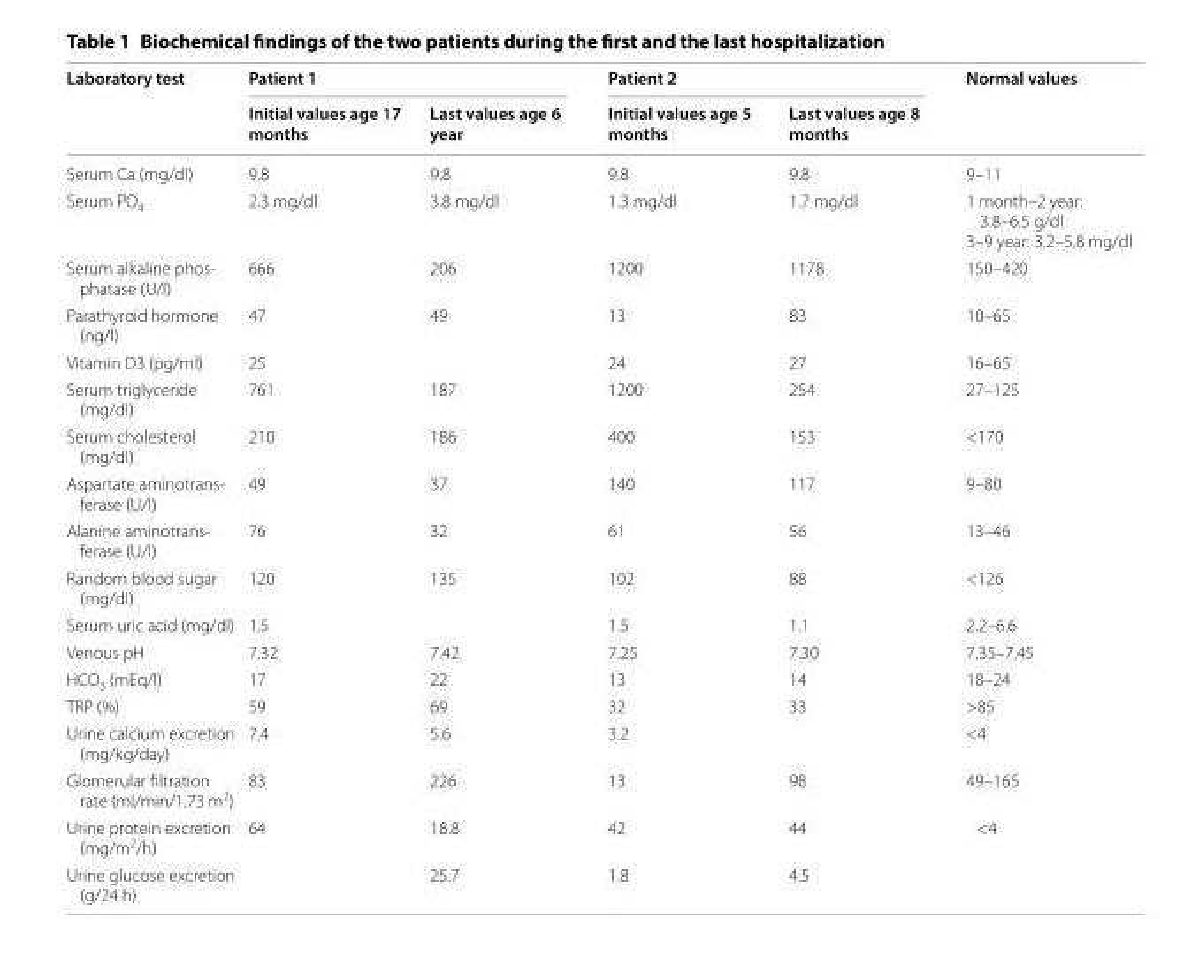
<table><thead><tr><td rowspan="2">Laboratory test</td><td colspan="2">Patient 1</td><td colspan="2">Patient 2</td><td rowspan="2">Normal values</td></tr><tr><td>Initial values age 17 months</td><td>Last values age 6 year</td><td>Initial values age 5 months</td><td>Last values age 8 months</td></tr></thead><tbody><tr><td>Serum Ca (mg/dl)</td><td>9.8</td><td>9.8</td><td>9.8</td><td>9.8</td><td>9–11</td></tr><tr><td>Serum PO<sub>4</sub></td><td>2.3 mg/dl</td><td>3.8 mg/dl</td><td>1.3 mg/dl</td><td>1.7 mg/dl</td><td>1 month–2 year: 3.8–6.5 g/dl 3–9 year: 3.2–5.8 mg/dl</td></tr><tr><td>Serum alkaline phos- phatase (U/l)</td><td>666</td><td>206</td><td>1200</td><td>1178</td><td>150–420</td></tr><tr><td>Parathyroid hormone (ng/l)</td><td>47</td><td>49</td><td>13</td><td>83</td><td>10–65</td></tr><tr><td>Vitamin D3 (pg/ml)</td><td>25</td><td></td><td>24</td><td>27</td><td>16–65</td></tr><tr><td>Serum triglyceride (mg/dl)</td><td>761</td><td>187</td><td>1200</td><td>254</td><td>27–125</td></tr><tr><td>Serum cholesterol (mg/dl)</td><td>210</td><td>186</td><td>400</td><td>153</td><td>&lt;170</td></tr><tr><td>Aspartate aminotrans- ferase (U/l)</td><td>49</td><td>37</td><td>140</td><td>117</td><td>9–80</td></tr><tr><td>Alanine aminotrans- ferase (U/l)</td><td>76</td><td>32</td><td>61</td><td>56</td><td>13–46</td></tr><tr><td>Random blood sugar (mg/dl)</td><td>120</td><td>135</td><td>102</td><td>88</td><td>&lt;126</td></tr><tr><td>Serum uric acid (mg/dl)</td><td>1.5</td><td></td><td>1.5</td><td>1.1</td><td>2.2–6.6</td></tr><tr><td>Venous pH</td><td>7.32</td><td>7.42</td><td>7.25</td><td>7.30</td><td>7.35–7.45</td></tr><tr><td>HCO<sub>3</sub> (mEq/l)</td><td>17</td><td>22</td><td>13</td><td>14</td><td>18–24</td></tr><tr><td>TRP (%)</td><td>59</td><td>69</td><td>32</td><td>33</td><td>&gt;85</td></tr><tr><td>Urine calcium excretion (mg/kg/day)</td><td>7.4</td><td>5.6</td><td>3.2</td><td></td><td>&lt;4</td></tr><tr><td>Glomerular filtration rate (ml/min/1.73 m<sup>2</sup>)</td><td>83</td><td>226</td><td>13</td><td>98</td><td>49–165</td></tr><tr><td>Urine protein excretion (mg/m<sup>2</sup>/h)</td><td>64</td><td>18.8</td><td>42</td><td>44</td><td>&lt;4</td></tr><tr><td>Urine glucose excretion (g/24 h)</td><td></td><td>25.7</td><td>1.8</td><td>4.5</td><td></td></tr></tbody></table>